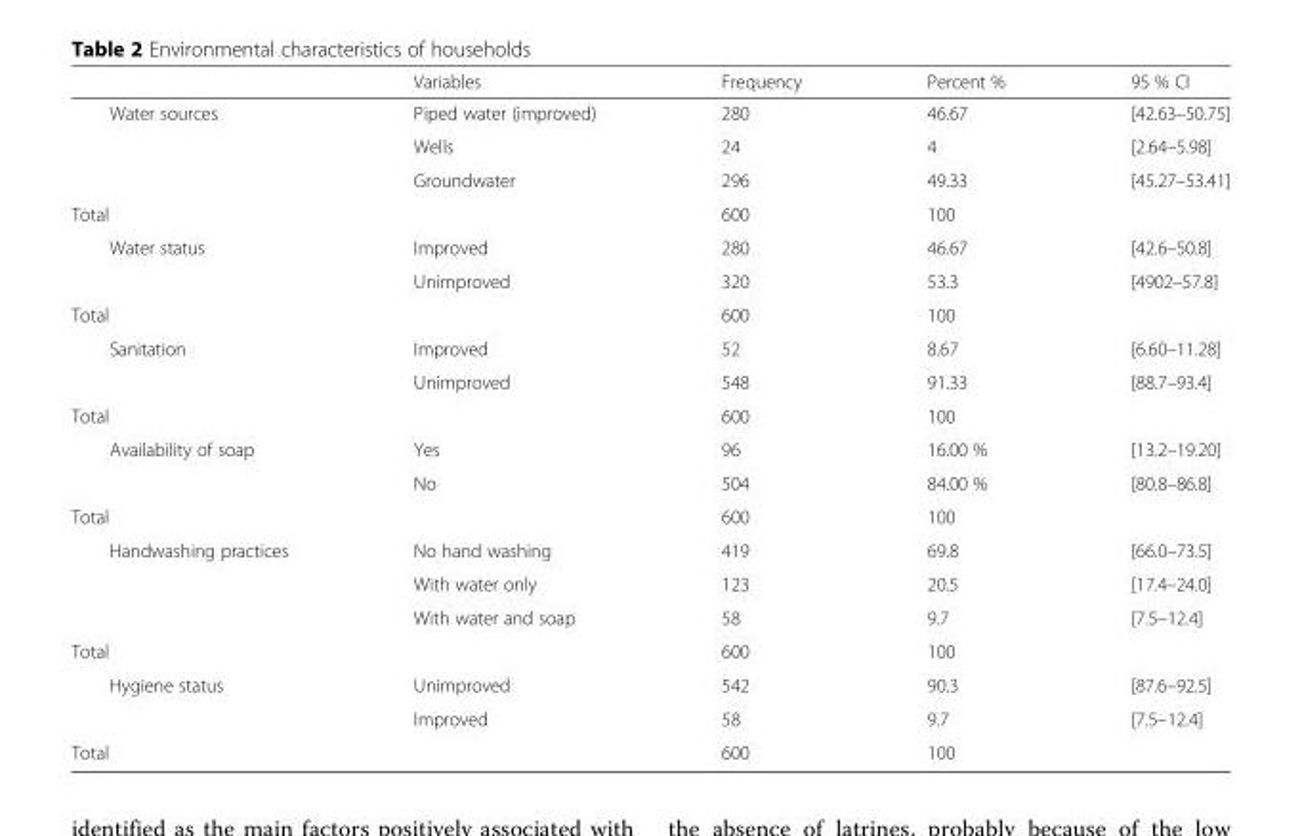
<table><thead><tr><td></td><td>Variables</td><td>Frequency</td><td>Percent %</td><td>95 % CI</td></tr></thead><tbody><tr><td rowspan="3">Water sources</td><td>Piped water (improved)</td><td>280</td><td>46.67</td><td>[42.63–50.75]</td></tr><tr><td>Wells</td><td>24</td><td>4</td><td>[2.64–5.98]</td></tr><tr><td>Groundwater</td><td>296</td><td>49.33</td><td>[45.27–53.41]</td></tr><tr><td>Total</td><td></td><td>600</td><td>100</td><td></td></tr><tr><td rowspan="2">Water status</td><td>Improved</td><td>280</td><td>46.67</td><td>[42.6–50.8]</td></tr><tr><td>Unimproved</td><td>320</td><td>53.3</td><td>[4902–57.8]</td></tr><tr><td>Total</td><td></td><td>600</td><td>100</td><td></td></tr><tr><td rowspan="2">Sanitation</td><td>Improved</td><td>52</td><td>8.67</td><td>[6.60–11.28]</td></tr><tr><td>Unimproved</td><td>548</td><td>91.33</td><td>[88.7–93.4]</td></tr><tr><td>Total</td><td></td><td>600</td><td>100</td><td></td></tr><tr><td rowspan="2">Availability of soap</td><td>Yes</td><td>96</td><td>16.00 %</td><td>[13.2–19.20]</td></tr><tr><td>No</td><td>504</td><td>84.00 %</td><td>[80.8–86.8]</td></tr><tr><td>Total</td><td></td><td>600</td><td>100</td><td></td></tr><tr><td rowspan="3">Handwashing practices</td><td>No hand washing</td><td>419</td><td>69.8</td><td>[66.0–73.5]</td></tr><tr><td>With water only</td><td>123</td><td>20.5</td><td>[17.4–24.0]</td></tr><tr><td>With water and soap</td><td>58</td><td>9.7</td><td>[7.5–12.4]</td></tr><tr><td>Total</td><td></td><td>600</td><td>100</td><td></td></tr><tr><td rowspan="2">Hygiene status</td><td>Unimproved</td><td>542</td><td>90.3</td><td>[87.6–92.5]</td></tr><tr><td>Improved</td><td>58</td><td>9.7</td><td>[7.5–12.4]</td></tr><tr><td>Total</td><td></td><td>600</td><td>100</td><td></td></tr></tbody></table>